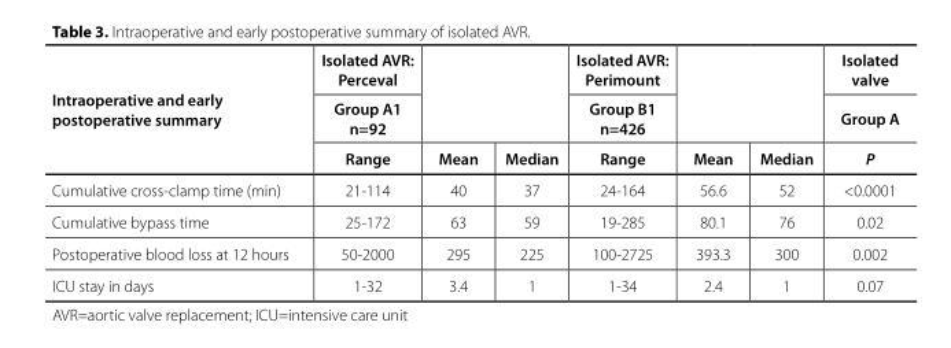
<table><thead><tr><td rowspan="3">Intraoperative and early postoperative summary</td><td rowspan="3">Isolated AVR: Perceval Group A1 n=92 Range</td><td rowspan="3">Mean</td><td rowspan="3">Median</td><td rowspan="3">Isolated AVR: Perimount Group B1 n=426 Range</td><td rowspan="3">Mean</td><td rowspan="3">Median</td><td rowspan="3">Isolated valve Group A P</td></tr><tr></tr><tr></tr></thead><tbody><tr><td>Cumulative cross-clamp time (min)</td><td>21-114</td><td>40</td><td>37</td><td>24-164</td><td>56.6</td><td>52</td><td>&lt;0.0001</td></tr><tr><td>Cumulative bypass time</td><td>25-172</td><td>63</td><td>59</td><td>19-285</td><td>80.1</td><td>76</td><td>0.02</td></tr><tr><td>Postoperative blood loss at 12 hours</td><td>50-2000</td><td>295</td><td>225</td><td>100-2725</td><td>393.3</td><td>300</td><td>0.002</td></tr><tr><td>ICU stay in days</td><td>1-32</td><td>3.4</td><td>1</td><td>1-34</td><td>2.4</td><td>1</td><td>0.07</td></tr></tbody></table>